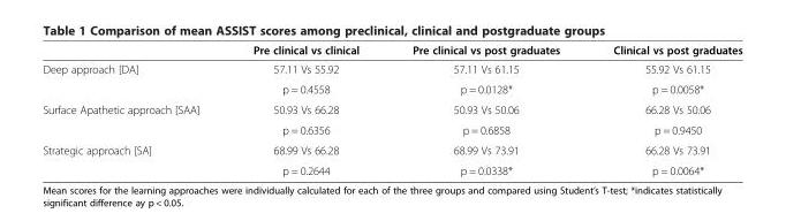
<table><thead><tr><td></td><td>Pre clinical vs clinical</td><td>Pre clinical vs post graduates</td><td>Clinical vs post graduates</td></tr></thead><tbody><tr><td rowspan="2">Deep approach [DA]</td><td>57.11 Vs 55.92</td><td>57.11 Vs 61.15</td><td>55.92 Vs 61.15</td></tr><tr><td>p = 0.4558</td><td>p = 0.0128*</td><td>p = 0.0058*</td></tr><tr><td rowspan="2">Surface Apathetic approach [SAA]</td><td>50.93 Vs 66.28</td><td>50.93 Vs 50.06</td><td>66.28 Vs 50.06</td></tr><tr><td>p = 0.6356</td><td>p = 0.6858</td><td>p = 0.9450</td></tr><tr><td rowspan="2">Strategic approach [SA]</td><td>68.99 Vs 66.28</td><td>68.99 Vs 73.91</td><td>66.28 Vs 73.91</td></tr><tr><td>p = 0.2644</td><td>p = 0.0338*</td><td>p = 0.0064*</td></tr></tbody></table>